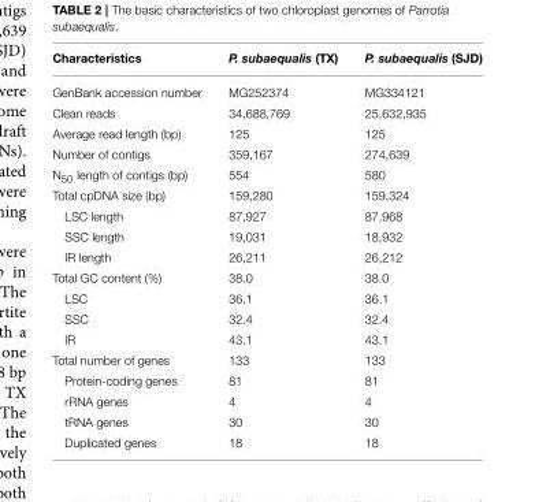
<table><thead><tr><td>Characteristics</td><td>P. subaequalis (TX)</td><td>P. subaequalis (SJD)</td></tr></thead><tbody><tr><td>GenBank accession number</td><td>MG252374</td><td>MG334121</td></tr><tr><td>Clean reads</td><td>34,688,769</td><td>25,632,935</td></tr><tr><td>Average read length (bp)</td><td>125</td><td>125</td></tr><tr><td>Number of contigs</td><td>359,167</td><td>274,639</td></tr><tr><td>N<sub>50</sub> length of contigs (bp)</td><td>554</td><td>580</td></tr><tr><td>Total cpDNA size (bp)</td><td>159,280</td><td>159,324</td></tr><tr><td>LSC length</td><td>87,927</td><td>87,968</td></tr><tr><td>SSC length</td><td>19,031</td><td>18,932</td></tr><tr><td>IR length</td><td>26,211</td><td>26,212</td></tr><tr><td>Total GC content (%)</td><td>38.0</td><td>38.0</td></tr><tr><td>LSC</td><td>36.1</td><td>36.1</td></tr><tr><td>SSC</td><td>32.4</td><td>32.4</td></tr><tr><td>IR</td><td>43.1</td><td>43.1</td></tr><tr><td>Total number of genes</td><td>133</td><td>133</td></tr><tr><td>Protein-coding genes</td><td>81</td><td>81</td></tr><tr><td>rRNA genes</td><td>4</td><td>4</td></tr><tr><td>tRNA genes</td><td>30</td><td>30</td></tr><tr><td>Duplicated genes</td><td>18</td><td>18</td></tr></tbody></table>